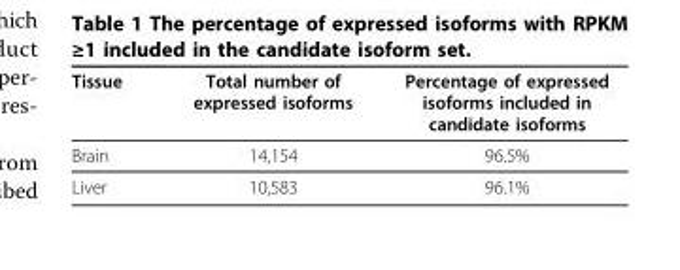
<table><thead><tr><td>Tissue</td><td>Total number of expressed isoforms</td><td>Percentage of expressed isoforms included in candidate isoforms</td></tr></thead><tbody><tr><td>Brain</td><td>14,154</td><td>96.5%</td></tr><tr><td>Liver</td><td>10,583</td><td>96.1%</td></tr></tbody></table>